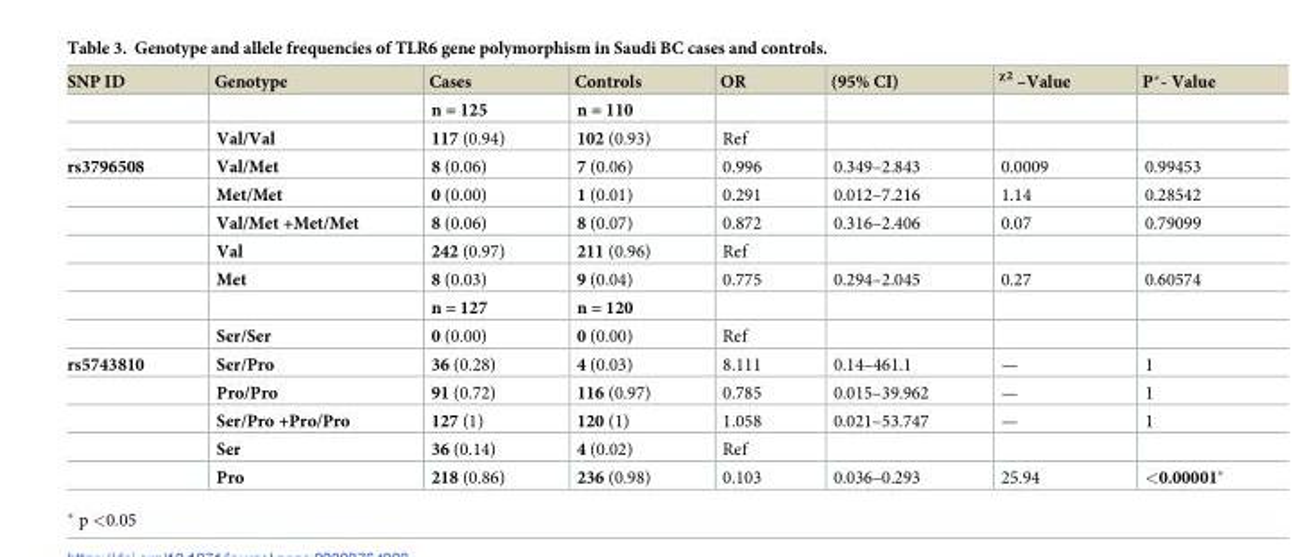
<table><thead><tr><td>SNP ID</td><td>Genotype</td><td>Cases</td><td>Controls</td><td>OR</td><td>(95% CI)</td><td><sup>χ2</sup> –Value</td><td>P*- Value</td></tr></thead><tbody><tr><td></td><td></td><td>n = 125</td><td>n = 110</td><td></td><td></td><td></td><td></td></tr><tr><td></td><td>Val/Val</td><td>117 (0.94)</td><td>102 (0.93)</td><td>Ref</td><td></td><td></td><td></td></tr><tr><td rowspan="7">rs3796508</td><td>Val/Met</td><td>8 (0.06)</td><td>7 (0.06)</td><td>0.996</td><td>0.349–2.843</td><td>0.0009</td><td>0.99453</td></tr><tr><td>Met/Met</td><td>0 (0.00)</td><td>1 (0.01)</td><td>0.291</td><td>0.012–7.216</td><td>1.14</td><td>0.28542</td></tr><tr><td>Val/Met +Met/Met</td><td>8 (0.06)</td><td>8 (0.07)</td><td>0.872</td><td>0.316–2.406</td><td>0.07</td><td>0.79099</td></tr><tr><td>Val</td><td>242 (0.97)</td><td>211 (0.96)</td><td>Ref</td><td></td><td></td><td></td></tr><tr><td>Met</td><td>8 (0.03)</td><td>9 (0.04)</td><td>0.775</td><td>0.294–2.045</td><td>0.27</td><td>0.60574</td></tr><tr><td></td><td>n = 127</td><td>n = 120</td><td></td><td></td><td></td><td></td></tr><tr><td>Ser/Ser</td><td>0 (0.00)</td><td>0 (0.00)</td><td>Ref</td><td></td><td></td><td></td></tr><tr><td rowspan="5">rs5743810</td><td>Ser/Pro</td><td>36 (0.28)</td><td>4 (0.03)</td><td>8.111</td><td>0.14–461.1</td><td>—</td><td>1</td></tr><tr><td>Pro/Pro</td><td>91 (0.72)</td><td>116 (0.97)</td><td>0.785</td><td>0.015–39.962</td><td>—</td><td>1</td></tr><tr><td>Ser/Pro +Pro/Pro</td><td>127 (1)</td><td>120 (1)</td><td>1.058</td><td>0.021–53.747</td><td>—</td><td>1</td></tr><tr><td>Ser</td><td>36 (0.14)</td><td>4 (0.02)</td><td>Ref</td><td></td><td></td><td></td></tr><tr><td>Pro</td><td>218 (0.86)</td><td>236 (0.98)</td><td>0.103</td><td>0.036–0.293</td><td>25.94</td><td>&lt;0.00001*</td></tr></tbody></table>